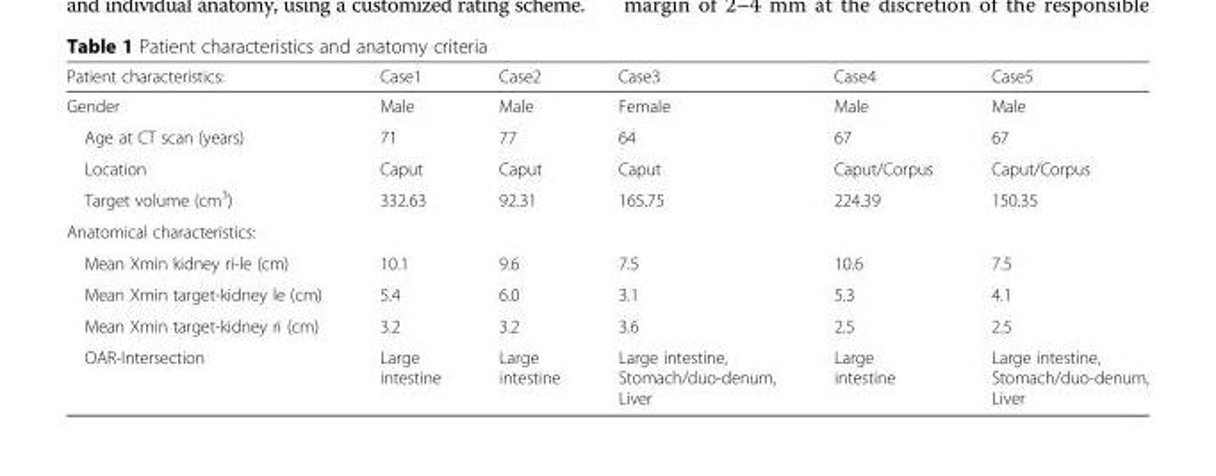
<table><thead><tr><td>Patient characteristics:</td><td>Case1</td><td>Case2</td><td>Case3</td><td>Case4</td><td>Case5</td></tr></thead><tbody><tr><td>Gender</td><td>Male</td><td>Male</td><td>Female</td><td>Male</td><td>Male</td></tr><tr><td>Age at CT scan (years)</td><td>71</td><td>77</td><td>64</td><td>67</td><td>67</td></tr><tr><td>Location</td><td>Caput</td><td>Caput</td><td>Caput</td><td>Caput/Corpus</td><td>Caput/Corpus</td></tr><tr><td>Target volume (cm<sup>3</sup>)</td><td>332.63</td><td>92.31</td><td>165.75</td><td>224.39</td><td>150.35</td></tr><tr><td colspan="6">Anatomical characteristics:</td></tr><tr><td>Mean Xmin kidney ri-le (cm)</td><td>10.1</td><td>9.6</td><td>7.5</td><td>10.6</td><td>7.5</td></tr><tr><td>Mean Xmin target-kidney le (cm)</td><td>5.4</td><td>6.0</td><td>3.1</td><td>5.3</td><td>4.1</td></tr><tr><td>Mean Xmin target-kidney ri (cm)</td><td>3.2</td><td>3.2</td><td>3.6</td><td>2.5</td><td>2.5</td></tr><tr><td>OAR-Intersection</td><td>Large intestine</td><td>Large intestine</td><td>Large intestine, Stomach/duo-denum, Liver</td><td>Large intestine</td><td>Large intestine, Stomach/duo-denum, Liver</td></tr></tbody></table>